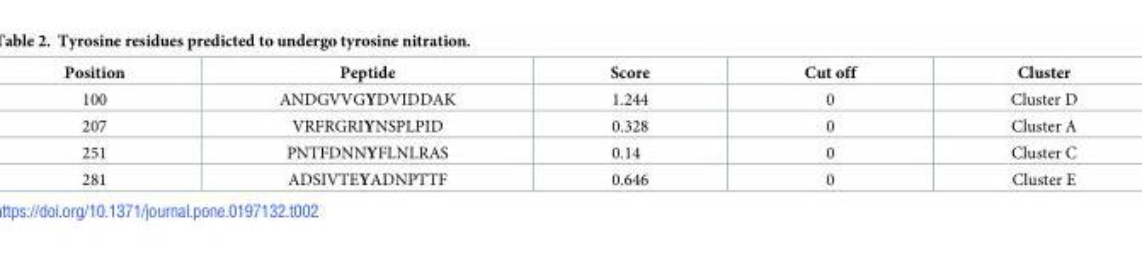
<table><thead><tr><td>Position</td><td>Peptide</td><td>Score</td><td>Cut off</td><td>Cluster</td></tr></thead><tbody><tr><td>100</td><td>ANDGVVGYDVIDDAK</td><td>1.244</td><td>0</td><td>Cluster D</td></tr><tr><td>207</td><td>VRFRGRIYNSPLPID</td><td>0.328</td><td>0</td><td>Cluster A</td></tr><tr><td>251</td><td>PNTFDNNYFLNLRAS</td><td>0.14</td><td>0</td><td>Cluster C</td></tr><tr><td>281</td><td>ADSIVTEYADNPTTF</td><td>0.646</td><td>0</td><td>Cluster E</td></tr></tbody></table>